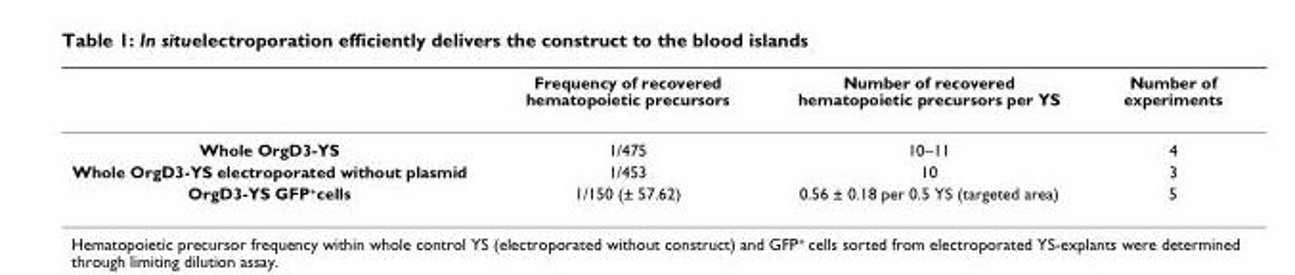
<table><thead><tr><td></td><td>Frequency of recovered hematopoietic precursors</td><td>Number of recovered hematopoietic precursors per YS</td><td>Number of experiments</td></tr></thead><tbody><tr><td>Whole OrgD3-YS</td><td>1/475</td><td>10–11</td><td>4</td></tr><tr><td>Whole OrgD3-YS electroporated without plasmid</td><td>1/453</td><td>10</td><td>3</td></tr><tr><td>OrgD3-YS GFP<sup>+</sup>cells</td><td>1/150 (± 57.62)</td><td>0.56 ± 0.18 per 0.5 YS (targeted area)</td><td>5</td></tr></tbody></table>